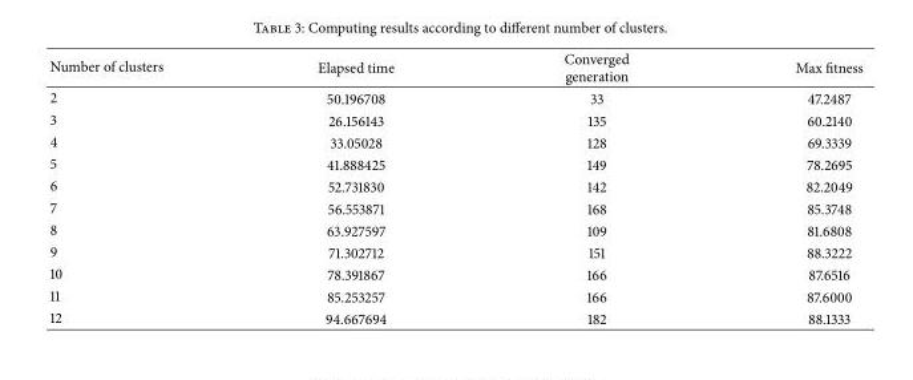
<table><thead><tr><td>Number of clusters</td><td>Elapsed time</td><td>Converged generation</td><td>Max fitness</td></tr></thead><tbody><tr><td>2</td><td>50.196708</td><td>33</td><td>47.2487</td></tr><tr><td>3</td><td>26.156143</td><td>135</td><td>60.2140</td></tr><tr><td>4</td><td>33.05028</td><td>128</td><td>69.3339</td></tr><tr><td>5</td><td>41.888425</td><td>149</td><td>78.2695</td></tr><tr><td>6</td><td>52.731830</td><td>142</td><td>82.2049</td></tr><tr><td>7</td><td>56.553871</td><td>168</td><td>85.3748</td></tr><tr><td>8</td><td>63.927597</td><td>109</td><td>81.6808</td></tr><tr><td>9</td><td>71.302712</td><td>151</td><td>88.3222</td></tr><tr><td>10</td><td>78.391867</td><td>166</td><td>87.6516</td></tr><tr><td>11</td><td>85.253257</td><td>166</td><td>87.6000</td></tr><tr><td>12</td><td>94.667694</td><td>182</td><td>88.1333</td></tr></tbody></table>